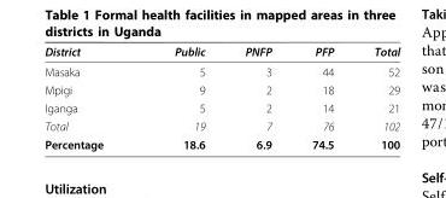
<table><thead><tr><td>District</td><td>Public</td><td>PNFP</td><td>PFP</td><td>Total</td></tr></thead><tbody><tr><td>Masaka</td><td>5</td><td>3</td><td>44</td><td>52</td></tr><tr><td>Mpigi</td><td>9</td><td>2</td><td>18</td><td>29</td></tr><tr><td>Iganga</td><td>5</td><td>2</td><td>14</td><td>21</td></tr><tr><td>Total</td><td>19</td><td>7</td><td>76</td><td>102</td></tr><tr><td>Percentage</td><td>18.6</td><td>6.9</td><td>74.5</td><td>100</td></tr></tbody></table>